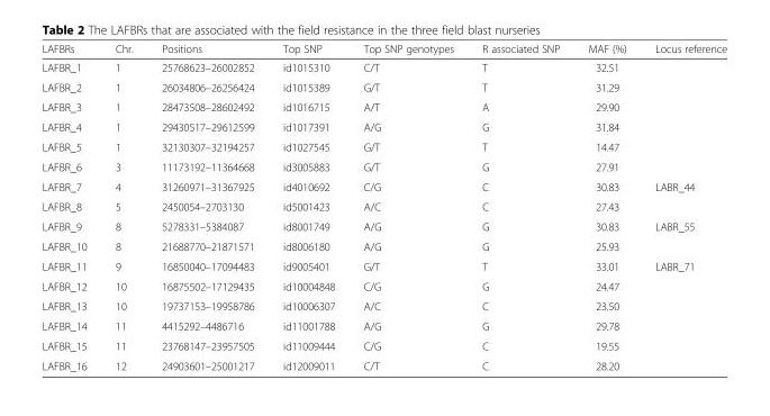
<table><thead><tr><td>LAFBRs</td><td>Chr.</td><td>Positions</td><td>Top SNP</td><td>Top SNP genotypes</td><td>R associated SNP</td><td>MAF (%)</td><td>Locus reference</td></tr></thead><tbody><tr><td>LAFBR_1</td><td>1</td><td>25768623–26002852</td><td>id1015310</td><td>C/T</td><td>T</td><td>32.51</td><td></td></tr><tr><td>LAFBR_2</td><td>1</td><td>26034806–26256424</td><td>id1015389</td><td>G/T</td><td>T</td><td>31.29</td><td></td></tr><tr><td>LAFBR_3</td><td>1</td><td>28473508–28602492</td><td>id1016715</td><td>A/T</td><td>A</td><td>29.90</td><td></td></tr><tr><td>LAFBR_4</td><td>1</td><td>29430517–29612599</td><td>id1017391</td><td>A/G</td><td>G</td><td>31.84</td><td></td></tr><tr><td>LAFBR_5</td><td>1</td><td>32130307–32194257</td><td>id1027545</td><td>G/T</td><td>T</td><td>14.47</td><td></td></tr><tr><td>LAFBR_6</td><td>3</td><td>11173192–11364668</td><td>id3005883</td><td>G/T</td><td>G</td><td>27.91</td><td></td></tr><tr><td>LAFBR_7</td><td>4</td><td>31260971–31367925</td><td>id4010692</td><td>C/G</td><td>C</td><td>30.83</td><td>LABR_44</td></tr><tr><td>LAFBR_8</td><td>5</td><td>2450054–2703130</td><td>id5001423</td><td>A/C</td><td>C</td><td>27.43</td><td></td></tr><tr><td>LAFBR_9</td><td>8</td><td>5278331–5384087</td><td>id8001749</td><td>A/G</td><td>G</td><td>30.83</td><td>LABR_55</td></tr><tr><td>LAFBR_10</td><td>8</td><td>21688770–21871571</td><td>id8006180</td><td>A/G</td><td>G</td><td>25.93</td><td></td></tr><tr><td>LAFBR_11</td><td>9</td><td>16850040–17094483</td><td>id9005401</td><td>G/T</td><td>T</td><td>33.01</td><td>LABR_71</td></tr><tr><td>LAFBR_12</td><td>10</td><td>16875502–17129435</td><td>id10004848</td><td>C/G</td><td>G</td><td>24.47</td><td></td></tr><tr><td>LAFBR_13</td><td>10</td><td>19737153–19958786</td><td>id10006307</td><td>A/C</td><td>C</td><td>23.50</td><td></td></tr><tr><td>LAFBR_14</td><td>11</td><td>4415292–4486716</td><td>id11001788</td><td>A/G</td><td>G</td><td>29.78</td><td></td></tr><tr><td>LAFBR_15</td><td>11</td><td>23768147–23957505</td><td>id11009444</td><td>C/G</td><td>C</td><td>19.55</td><td></td></tr><tr><td>LAFBR_16</td><td>12</td><td>24903601–25001217</td><td>id12009011</td><td>C/T</td><td>C</td><td>28.20</td><td></td></tr></tbody></table>